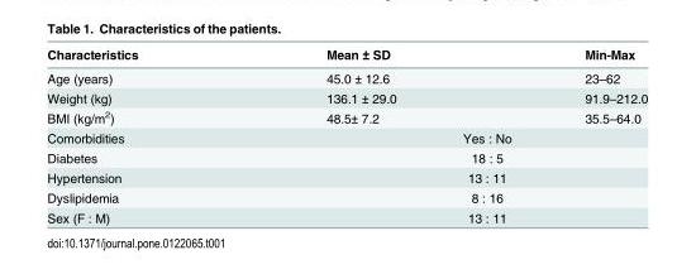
<table><thead><tr><td>Characteristics</td><td>Mean ± SD</td><td>Min-Max</td></tr></thead><tbody><tr><td>Age (years)</td><td>45.0 ± 12.6</td><td>23–62</td></tr><tr><td>Weight (kg)</td><td>136.1 ± 29.0</td><td>91.9–212.0</td></tr><tr><td>BMI (kg/m<sup>2</sup>)</td><td>48.5± 7.2</td><td>35.5–64.0</td></tr><tr><td>Comorbidities</td><td colspan="2">Yes : No</td></tr><tr><td>Diabetes</td><td colspan="2">18 : 5</td></tr><tr><td>Hypertension</td><td colspan="2">13 : 11</td></tr><tr><td>Dyslipidemia</td><td colspan="2">8 : 16</td></tr><tr><td>Sex (F : M)</td><td colspan="2">13 : 11</td></tr></tbody></table>